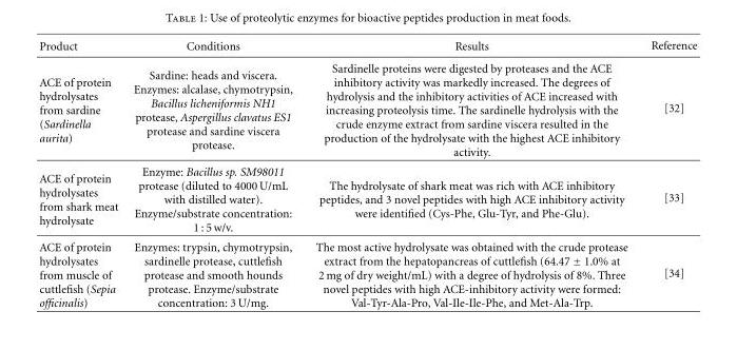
<table><thead><tr><td>Product</td><td>Conditions</td><td>Results</td><td>Reference</td></tr></thead><tbody><tr><td>ACE of protein hydrolysates from sardine (Sardinella aurita)</td><td>Sardine: heads and viscera. Enzymes: alcalase, chymotrypsin, Bacillus licheniformis NH1 protease, Aspergillus clavatus ES1 protease and sardine viscera protease.</td><td>Sardinelle proteins were digested by proteases and the ACE inhibitory activity was markedly increased. The degrees of hydrolysis and the inhibitory activities of ACE increased with increasing proteolysis time. The sardinelle hydrolysis with the crude enzyme extract from sardine viscera resulted in the production of the hydrolysate with the highest ACE inhibitory activity.</td><td>[32]</td></tr><tr><td>ACE of protein hydrolysates from shark meat hydrolysate</td><td>Enzyme: Bacillus sp. SM98011 protease (diluted to 4000 U/mL with distilled water). Enzyme/substrate concentration: 1 : 5 w/v.</td><td>The hydrolysate of shark meat was rich with ACE inhibitory peptides, and 3 novel peptides with high ACE inhibitory activity were identified (Cys-Phe, Glu-Tyr, and Phe-Glu).</td><td>[33]</td></tr><tr><td>ACE of protein hydrolysates from muscle of cuttlefish (Sepia officinalis)</td><td>Enzymes: trypsin, chymotrypsin, sardinelle protease, cuttlefish protease and smooth hounds protease. Enzyme/substrate concentration: 3 U/mg.</td><td>The most active hydrolysate was obtained with the crude protease extract from the hepatopancreas of cuttlefish (64.47 ± 1.0% at 2 mg of dry weight/mL) with a degree of hydrolysis of 8%. Three novel peptides with high ACE-inhibitory activity were formed: Val-Tyr-Ala-Pro, Val-Ile-Ile-Phe, and Met-Ala-Trp.</td><td>[34]</td></tr></tbody></table>